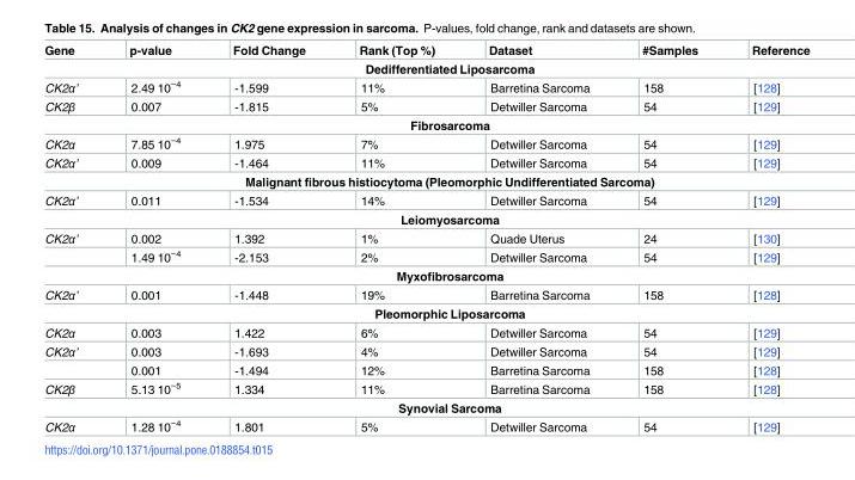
<table><thead><tr><td>Gene</td><td>p-value</td><td>Fold Change</td><td>Rank (Top %)</td><td>Dataset</td><td>#Samples</td><td>Reference</td></tr></thead><tbody><tr><td colspan="7">Dedifferentiated Liposarcoma</td></tr><tr><td>CK2α’</td><td>2.49 10<sup>−4</sup></td><td>-1.599</td><td>11%</td><td>Barretina Sarcoma</td><td>158</td><td>[128]</td></tr><tr><td>CK2β</td><td>0.007</td><td>-1.815</td><td>5%</td><td>Detwiller Sarcoma</td><td>54</td><td>[129]</td></tr><tr><td colspan="7">Fibrosarcoma</td></tr><tr><td>CK2α</td><td>7.85 10<sup>−4</sup></td><td>1.975</td><td>7%</td><td>Detwiller Sarcoma</td><td>54</td><td>[129]</td></tr><tr><td>CK2α’</td><td>0.009</td><td>-1.464</td><td>11%</td><td>Detwiller Sarcoma</td><td>54</td><td>[129]</td></tr><tr><td colspan="7">Malignant fibrous histiocytoma (Pleomorphic Undifferentiated Sarcoma)</td></tr><tr><td>CK2α’</td><td>0.011</td><td>-1.534</td><td>14%</td><td>Detwiller Sarcoma</td><td>54</td><td>[129]</td></tr><tr><td colspan="7">Leiomyosarcoma</td></tr><tr><td rowspan="2">CK2α’</td><td>0.002</td><td>1.392</td><td>1%</td><td>Quade Uterus</td><td>24</td><td>[130]</td></tr><tr><td>1.49 10<sup>−4</sup></td><td>-2.153</td><td>2%</td><td>Detwiller Sarcoma</td><td>54</td><td>[129]</td></tr><tr><td colspan="7">Myxofibrosarcoma</td></tr><tr><td>CK2α’</td><td>0.001</td><td>-1.448</td><td>19%</td><td>Barretina Sarcoma</td><td>158</td><td>[128]</td></tr><tr><td colspan="7">Pleomorphic Liposarcoma</td></tr><tr><td>CK2α</td><td>0.003</td><td>1.422</td><td>6%</td><td>Detwiller Sarcoma</td><td>54</td><td>[129]</td></tr><tr><td rowspan="2">CK2α’</td><td>0.003</td><td>-1.693</td><td>4%</td><td>Detwiller Sarcoma</td><td>54</td><td>[129]</td></tr><tr><td>0.001</td><td>-1.494</td><td>12%</td><td>Barretina Sarcoma</td><td>158</td><td>[128]</td></tr><tr><td>CK2β</td><td>5.13 10<sup>−5</sup></td><td>1.334</td><td>11%</td><td>Barretina Sarcoma</td><td>158</td><td>[128]</td></tr><tr><td colspan="7">Synovial Sarcoma</td></tr><tr><td>CK2α</td><td>1.28 10<sup>−4</sup></td><td>1.801</td><td>5%</td><td>Detwiller Sarcoma</td><td>54</td><td>[129]</td></tr></tbody></table>